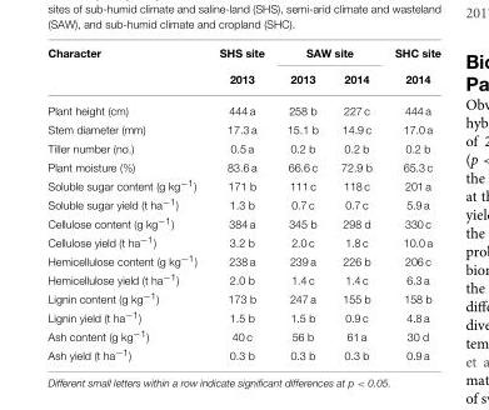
<table><thead><tr><td rowspan="2">Character</td><td rowspan="2">SHS site 2013</td><td colspan="2">SAW site</td><td rowspan="2">SHC site 2014</td></tr><tr><td>2013</td><td>2014</td></tr></thead><tbody><tr><td>Plant height (cm)</td><td>444 a</td><td>258 b</td><td>227 c</td><td>444 a</td></tr><tr><td>Stem diameter (mm)</td><td>17.3 a</td><td>15.1 b</td><td>14.9 c</td><td>17.0 a</td></tr><tr><td>Tiller number (no.)</td><td>0.5 a</td><td>0.2 b</td><td>0.2 b</td><td>0.2 b</td></tr><tr><td>Plant moisture (%)</td><td>83.6 a</td><td>66.6 c</td><td>72.9 b</td><td>65.3 c</td></tr><tr><td>Soluble sugar content (g kg<sup>−1</sup>)</td><td>171 b</td><td>111 c</td><td>118 c</td><td>201 a</td></tr><tr><td>Soluble sugar yield (t ha<sup>−1</sup>)</td><td>1.3 b</td><td>0.7 c</td><td>0.7 c</td><td>5.9 a</td></tr><tr><td>Cellulose content (g kg<sup>−1</sup>)</td><td>384 a</td><td>345 b</td><td>298 d</td><td>330 c</td></tr><tr><td>Cellulose yield (t ha<sup>−1</sup>)</td><td>3.2 b</td><td>2.0 c</td><td>1.8 c</td><td>10.0 a</td></tr><tr><td>Hemicellulose content (g kg<sup>−1</sup>)</td><td>238 a</td><td>239 a</td><td>226 b</td><td>206 c</td></tr><tr><td>Hemicellulose yield (t ha<sup>−1</sup>)</td><td>2.0 b</td><td>1.4 c</td><td>1.4 c</td><td>6.3 a</td></tr><tr><td>Lignin content (g kg<sup>−1</sup>)</td><td>173 b</td><td>247 a</td><td>155 b</td><td>158 b</td></tr><tr><td>Lignin yield (t ha<sup>−1</sup>)</td><td>1.5 b</td><td>1.5 b</td><td>0.9 c</td><td>4.8 a</td></tr><tr><td>Ash content (g kg<sup>−1</sup>)</td><td>40 c</td><td>56 b</td><td>61 a</td><td>30 d</td></tr><tr><td>Ash yield (t ha<sup>−1</sup>)</td><td>0.3 b</td><td>0.3 b</td><td>0.3 b</td><td>0.9 a</td></tr></tbody></table>